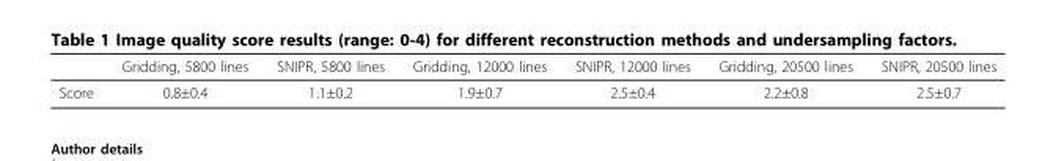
<table><thead><tr><td></td><td>Gridding, 5800 lines</td><td>SNIPR, 5800 lines</td><td>Gridding, 12000 lines</td><td>SNIPR, 12000 lines</td><td>Gridding, 20500 lines</td><td>SNIPR, 20500 lines</td></tr></thead><tbody><tr><td>Score</td><td>0.8±0.4</td><td>1.1±0.2</td><td>1.9±0.7</td><td>2.5±0.4</td><td>2.2±0.8</td><td>2.5±0.7</td></tr></tbody></table>